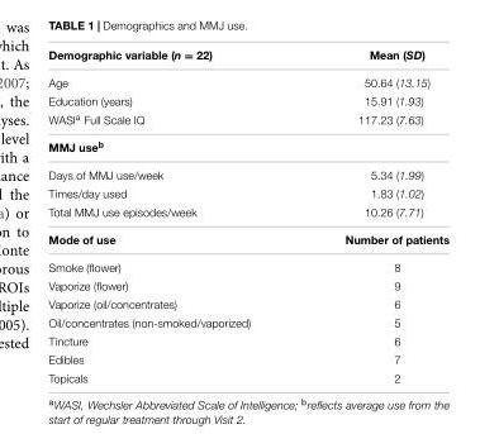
<table><thead><tr><td>Demographic variable (n = 22)</td><td>Mean (SD)</td></tr></thead><tbody><tr><td>Age</td><td>50.64 (13.15)</td></tr><tr><td>Education (years)</td><td>15.91 (1.93)</td></tr><tr><td>WASI<sup>a</sup> Full Scale IQ</td><td>117.23 (7.63)</td></tr><tr><td colspan="2">MMJ use<sup>b</sup></td></tr><tr><td>Days of MMJ use/week</td><td>5.34 (1.99)</td></tr><tr><td>Times/day used</td><td>1.83 (1.02)</td></tr><tr><td>Total MMJ use episodes/week</td><td>10.26 (7.71)</td></tr><tr><td>Mode of use</td><td>Number of patients</td></tr><tr><td>Smoke (flower)</td><td>8</td></tr><tr><td>Vaporize (flower)</td><td>9</td></tr><tr><td>Vaporize (oil/concentrates)</td><td>6</td></tr><tr><td>Oil/concentrates (non-smoked/vaporized)</td><td>5</td></tr><tr><td>Tincture</td><td>6</td></tr><tr><td>Edibles</td><td>7</td></tr><tr><td>Topicals</td><td>2</td></tr></tbody></table>